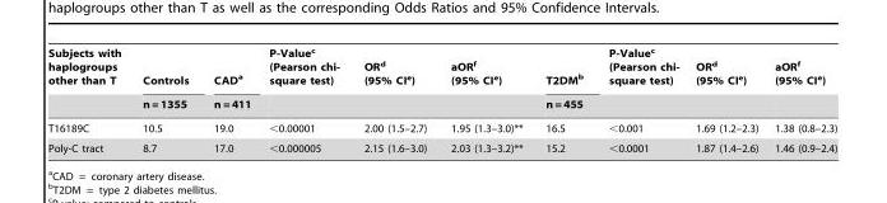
<table><thead><tr><td rowspan="2">Subjects with haplogroups other than T</td><td rowspan="2">Controls n = 1355</td><td rowspan="2">CAD<sup>a</sup> n = 411</td><td rowspan="2">P-Value<sup>c</sup> (Pearson chi- square test)</td><td rowspan="2">OR<sup>d</sup> (95% CI<sup>e</sup>)</td><td rowspan="2">aOR<sup>f</sup> (95% CI<sup>e</sup>)</td><td rowspan="2">T2DM<sup>b</sup> n = 455</td><td rowspan="2">P-Value<sup>c</sup> (Pearson chi- square test)</td><td rowspan="2">OR<sup>d</sup> (95% CI<sup>e</sup>)</td><td rowspan="2">aOR<sup>f</sup> (95% CI<sup>e</sup>)</td></tr><tr></tr></thead><tbody><tr><td>T16189C</td><td>10.5</td><td>19.0</td><td>&lt;0.00001</td><td>2.00 (1.5–2.7)</td><td>1.95 (1.3–3.0)**</td><td>16.5</td><td>&lt;0.001</td><td>1.69 (1.2–2.3)</td><td>1.38 (0.8–2.3)</td></tr><tr><td>Poly-C tract</td><td>8.7</td><td>17.0</td><td>&lt;0.000005</td><td>2.15 (1.6–3.0)</td><td>2.03 (1.3–3.2)**</td><td>15.2</td><td>&lt;0.0001</td><td>1.87 (1.4–2.6)</td><td>1.46 (0.9–2.4)</td></tr></tbody></table>